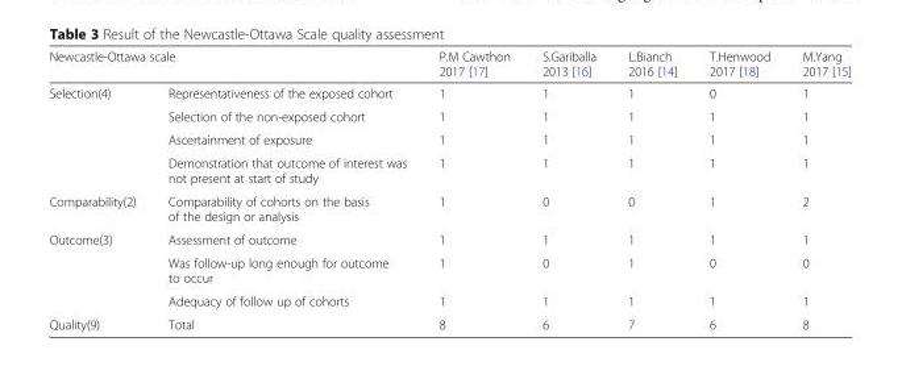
<table><thead><tr><td colspan="2">Newcastle-Ottawa scale</td><td rowspan="2">P.M Cawthon 2017 [17] 1</td><td rowspan="2">S.Gariballa 2013 [16] 1</td><td rowspan="2">L.Bianch 2016 [14] 1</td><td rowspan="2">T.Henwood 2017 [18] 0</td><td rowspan="2">M.Yang 2017 [15] 1</td></tr><tr><td>Selection(4)</td><td>Representativeness of the exposed cohort</td></tr></thead><tbody><tr><td></td><td>Selection of the non-exposed cohort</td><td>1</td><td>1</td><td>1</td><td>1</td><td>1</td></tr><tr><td></td><td>Ascertainment of exposure</td><td>1</td><td>1</td><td>1</td><td>1</td><td>1</td></tr><tr><td></td><td>Demonstration that outcome of interest was not present at start of study</td><td>1</td><td>1</td><td>1</td><td>1</td><td>1</td></tr><tr><td>Comparability(2)</td><td>Comparability of cohorts on the basis of the design or analysis</td><td>1</td><td>0</td><td>0</td><td>1</td><td>2</td></tr><tr><td rowspan="3">Outcome(3)</td><td>Assessment of outcome</td><td>1</td><td>1</td><td>1</td><td>1</td><td>1</td></tr><tr><td>Was follow-up long enough for outcome to occur</td><td>1</td><td>0</td><td>1</td><td>0</td><td>0</td></tr><tr><td>Adequacy of follow up of cohorts</td><td>1</td><td>1</td><td>1</td><td>1</td><td>1</td></tr><tr><td>Quality(9)</td><td>Total</td><td>8</td><td>6</td><td>7</td><td>6</td><td>8</td></tr></tbody></table>